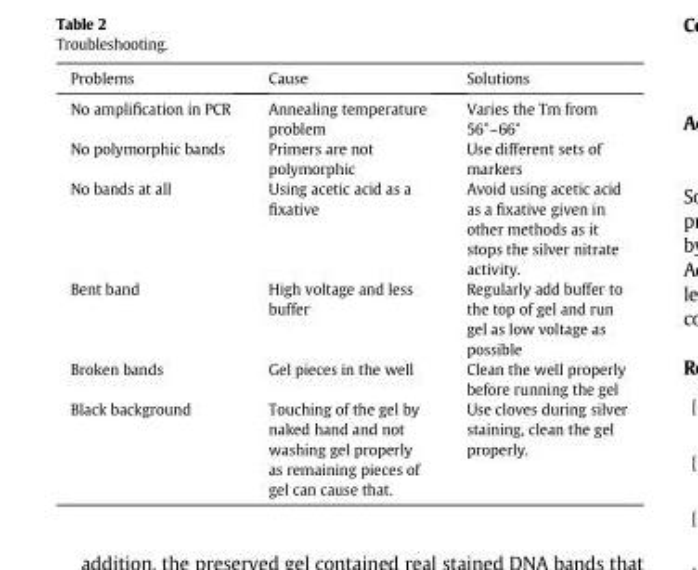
<table><thead><tr><td>Problems</td><td>Cause</td><td>Solutions</td></tr></thead><tbody><tr><td>No amplification in PCR</td><td>Annealing temperature problem</td><td>Varies the Tm from 56°–66°</td></tr><tr><td>No polymorphic bands</td><td>Primers are not polymorphic</td><td>Use different sets of markers</td></tr><tr><td>No bands at all</td><td>Using acetic acid as a fixative</td><td>Avoid using acetic acid as a fixative given in other methods as it stops the silver nitrate activity.</td></tr><tr><td>Bent band</td><td>High voltage and less buffer</td><td>Regularly add buffer to the top of gel and run gel as low voltage as possible</td></tr><tr><td>Broken bands</td><td>Gel pieces in the well</td><td>Clean the well properly before running the gel</td></tr><tr><td>Black background</td><td>Touching of the gel by naked hand and not washing gel properly as remaining pieces of gel can cause that.</td><td>Use cloves during silver staining, clean the gel properly.</td></tr></tbody></table>